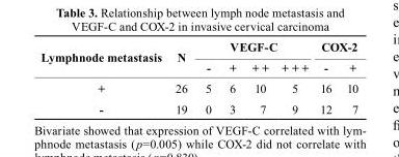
<table><thead><tr><td rowspan="2">Lymphnode metastasis</td><td rowspan="2">N</td><td colspan="4">VEGF-c</td><td colspan="2">cOX-2</td></tr><tr><td>-</td><td>+</td><td>+ +</td><td>+ + +</td><td>-</td><td>+</td></tr></thead><tbody><tr><td>+</td><td>26</td><td>5</td><td>6</td><td>10</td><td>5</td><td>16</td><td>10</td></tr><tr><td>-</td><td>19</td><td>0</td><td>3</td><td>7</td><td>9</td><td>12</td><td>7</td></tr></tbody></table>